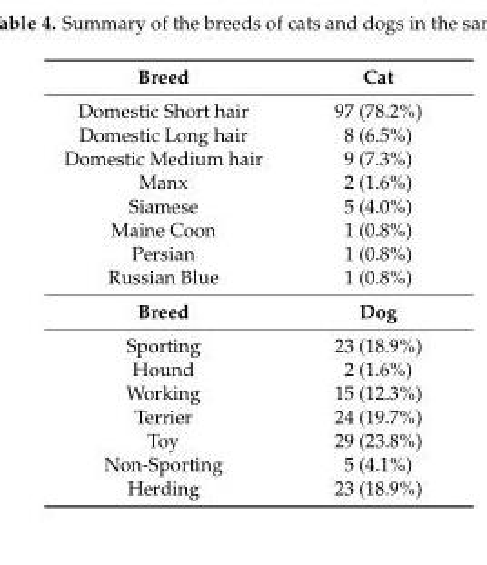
<table><thead><tr><td>Breed</td><td>Cat</td></tr></thead><tbody><tr><td>Domestic Short hair</td><td>97 (78.2%)</td></tr><tr><td>Domestic Long hair</td><td>8 (6.5%)</td></tr><tr><td>Domestic Medium hair</td><td>9 (7.3%)</td></tr><tr><td>Manx</td><td>2 (1.6%)</td></tr><tr><td>Siamese</td><td>5 (4.0%)</td></tr><tr><td>Maine Coon</td><td>1 (0.8%)</td></tr><tr><td>Persian</td><td>1 (0.8%)</td></tr><tr><td>Russian Blue</td><td>1 (0.8%)</td></tr><tr><td>Breed</td><td>Dog</td></tr><tr><td>Sporting</td><td>23 (18.9%)</td></tr><tr><td>Hound</td><td>2 (1.6%)</td></tr><tr><td>Working</td><td>15 (12.3%)</td></tr><tr><td>Terrier</td><td>24 (19.7%)</td></tr><tr><td>Toy</td><td>29 (23.8%)</td></tr><tr><td>Non-Sporting</td><td>5 (4.1%)</td></tr><tr><td>Herding</td><td>23 (18.9%)</td></tr></tbody></table>